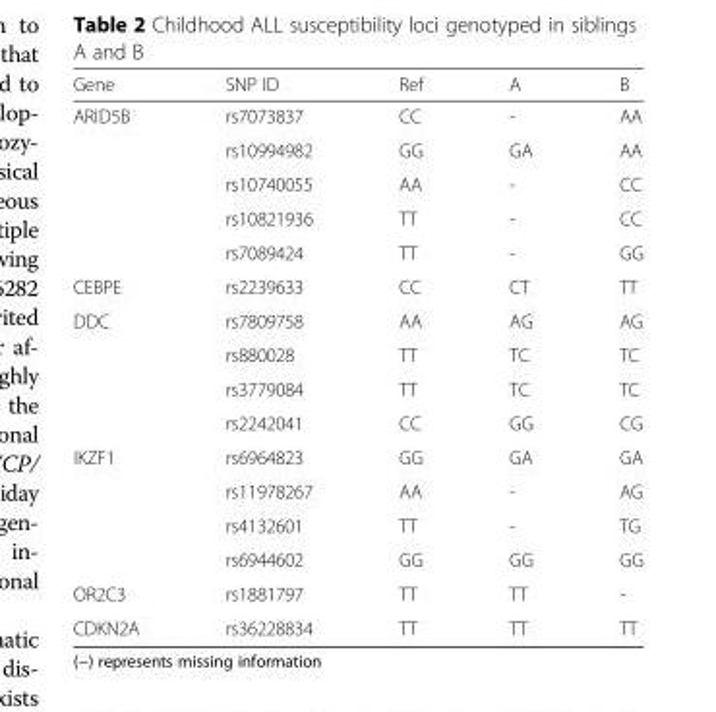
<table><thead><tr><td>Gene</td><td>SNP ID</td><td>Ref</td><td>A</td><td>B</td></tr></thead><tbody><tr><td rowspan="5">ARID5B</td><td>rs7073837</td><td>CC</td><td>-</td><td>AA</td></tr><tr><td>rs10994982</td><td>GG</td><td>GA</td><td>AA</td></tr><tr><td>rs10740055</td><td>AA</td><td>-</td><td>CC</td></tr><tr><td>rs10821936</td><td>TT</td><td>-</td><td>CC</td></tr><tr><td>rs7089424</td><td>TT</td><td>-</td><td>GG</td></tr><tr><td>CEBPE</td><td>rs2239633</td><td>CC</td><td>CT</td><td>TT</td></tr><tr><td rowspan="4">DDC</td><td>rs7809758</td><td>AA</td><td>AG</td><td>AG</td></tr><tr><td>rs880028</td><td>TT</td><td>TC</td><td>TC</td></tr><tr><td>rs3779084</td><td>TT</td><td>TC</td><td>TC</td></tr><tr><td>rs2242041</td><td>CC</td><td>GG</td><td>CG</td></tr><tr><td rowspan="4">IKZF1</td><td>rs6964823</td><td>GG</td><td>GA</td><td>GA</td></tr><tr><td>rs11978267</td><td>AA</td><td>-</td><td>AG</td></tr><tr><td>rs4132601</td><td>TT</td><td>-</td><td>TG</td></tr><tr><td>rs6944602</td><td>GG</td><td>GG</td><td>GG</td></tr><tr><td>OR2C3</td><td>rs1881797</td><td>TT</td><td>TT</td><td>-</td></tr><tr><td>CDKN2A</td><td>rs36228834</td><td>TT</td><td>TT</td><td>TT</td></tr></tbody></table>